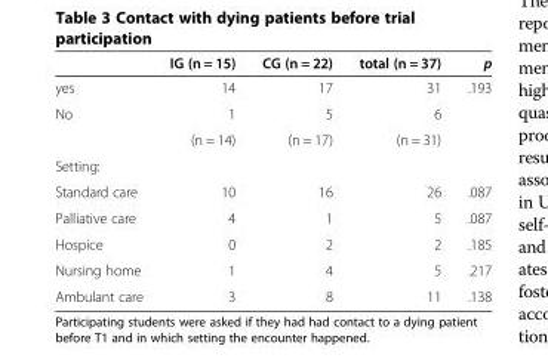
<table><thead><tr><td></td><td>IG (n = 15)</td><td>CG (n = 22)</td><td>total (n = 37)</td><td>p</td></tr></thead><tbody><tr><td>yes</td><td>14</td><td>17</td><td>31</td><td rowspan="2">.193</td></tr><tr><td rowspan="2">No</td><td>1</td><td>5</td><td>6</td></tr><tr><td>(n = 14)</td><td>(n = 17)</td><td>(n = 31)</td><td></td></tr><tr><td colspan="5">Setting:</td></tr><tr><td>Standard care</td><td>10</td><td>16</td><td>26</td><td>.087</td></tr><tr><td>Palliative care</td><td>4</td><td>1</td><td>5</td><td>.087</td></tr><tr><td>Hospice</td><td>0</td><td>2</td><td>2</td><td>.185</td></tr><tr><td>Nursing home</td><td>1</td><td>4</td><td>5</td><td>.217</td></tr><tr><td>Ambulant care</td><td>3</td><td>8</td><td>11</td><td>.138</td></tr></tbody></table>